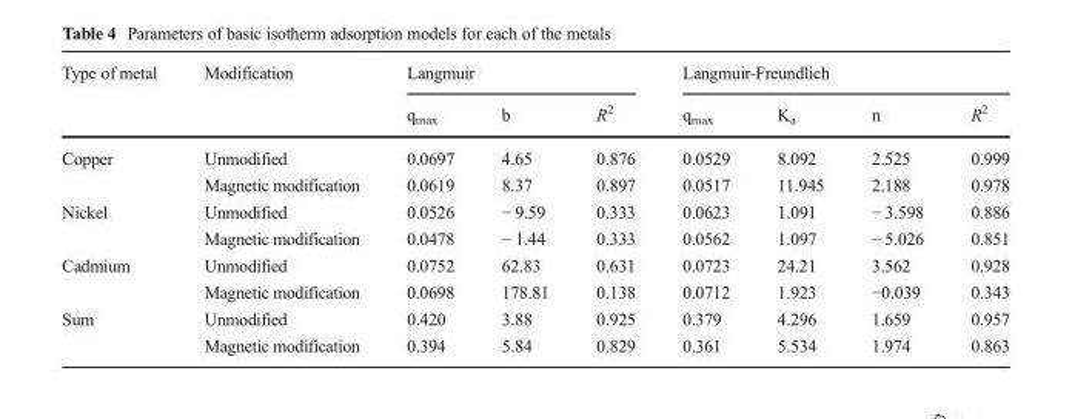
<table><thead><tr><td rowspan="2">Type of metal</td><td rowspan="2">Modification</td><td colspan="3">Langmuir</td><td colspan="4">Langmuir-Freundlich</td></tr><tr><td>q<sub>max</sub></td><td>b</td><td>R<sup>2</sup></td><td>q<sub>max</sub></td><td>K<sub>a</sub></td><td>n</td><td>R<sup>2</sup></td></tr></thead><tbody><tr><td rowspan="2">Copper</td><td>Unmodified</td><td>0.0697</td><td>4.65</td><td>0.876</td><td>0.0529</td><td>8.092</td><td>2.525</td><td>0.999</td></tr><tr><td>Magnetic modification</td><td>0.0619</td><td>8.37</td><td>0.897</td><td>0.0517</td><td>11.945</td><td>2.188</td><td>0.978</td></tr><tr><td rowspan="2">Nickel</td><td>Unmodified</td><td>0.0526</td><td>− 9.59</td><td>0.333</td><td>0.0623</td><td>1.091</td><td>− 3.598</td><td>0.886</td></tr><tr><td>Magnetic modification</td><td>0.0478</td><td>− 1.44</td><td>0.333</td><td>0.0562</td><td>1.097</td><td>− 5.026</td><td>0.851</td></tr><tr><td rowspan="2">Cadmium</td><td>Unmodified</td><td>0.0752</td><td>62.83</td><td>0.631</td><td>0.0723</td><td>24.21</td><td>3.562</td><td>0.928</td></tr><tr><td>Magnetic modification</td><td>0.0698</td><td>178.81</td><td>0.138</td><td>0.0712</td><td>1.923</td><td>−0.039</td><td>0.343</td></tr><tr><td rowspan="2">Sum</td><td>Unmodified</td><td>0.420</td><td>3.88</td><td>0.925</td><td>0.379</td><td>4.296</td><td>1.659</td><td>0.957</td></tr><tr><td>Magnetic modification</td><td>0.394</td><td>5.84</td><td>0.829</td><td>0.361</td><td>5.534</td><td>1.974</td><td>0.863</td></tr></tbody></table>